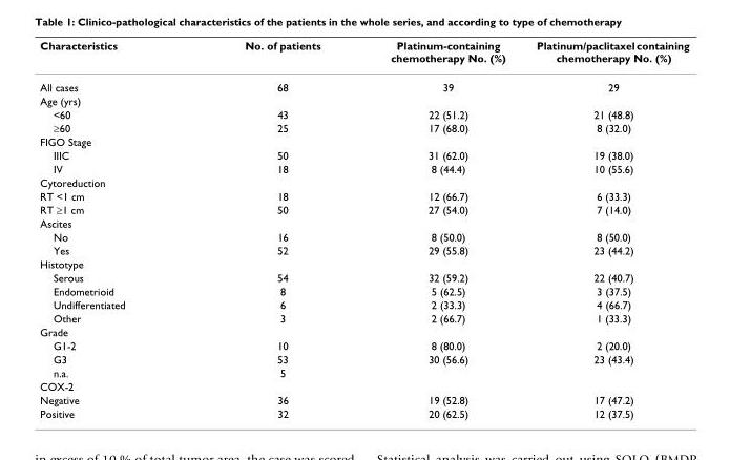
<table><thead><tr><td>Characteristics</td><td>No. of patients</td><td>Platinum-containing chemotherapy No. (%)</td><td>Platinum/paclitaxel containing chemotherapy No. (%)</td></tr></thead><tbody><tr><td>All cases</td><td>68</td><td>39</td><td>29</td></tr><tr><td colspan="4">Age (yrs)</td></tr><tr><td>&lt;60</td><td>43</td><td>22 (51.2)</td><td>21 (48.8)</td></tr><tr><td>≥60</td><td>25</td><td>17 (68.0)</td><td>8 (32.0)</td></tr><tr><td colspan="4">FIGO Stage</td></tr><tr><td>IIIC</td><td>50</td><td>31 (62.0)</td><td>19 (38.0)</td></tr><tr><td>IV</td><td>18</td><td>8 (44.4)</td><td>10 (55.6)</td></tr><tr><td colspan="4">Cytoreduction</td></tr><tr><td>RT &lt;1 cm</td><td>18</td><td>12 (66.7)</td><td>6 (33.3)</td></tr><tr><td>RT ≥1 cm</td><td>50</td><td>27 (54.0)</td><td>7 (14.0)</td></tr><tr><td colspan="4">Ascites</td></tr><tr><td>No</td><td>16</td><td>8 (50.0)</td><td>8 (50.0)</td></tr><tr><td>Yes</td><td>52</td><td>29 (55.8)</td><td>23 (44.2)</td></tr><tr><td colspan="4">Histotype</td></tr><tr><td>Serous</td><td>54</td><td>32 (59.2)</td><td>22 (40.7)</td></tr><tr><td>Endometrioid</td><td>8</td><td>5 (62.5)</td><td>3 (37.5)</td></tr><tr><td>Undifferentiated</td><td>6</td><td>2 (33.3)</td><td>4 (66.7)</td></tr><tr><td>Other</td><td>3</td><td>2 (66.7)</td><td>1 (33.3)</td></tr><tr><td colspan="4">Grade</td></tr><tr><td>G1-2</td><td>10</td><td>8 (80.0)</td><td>2 (20.0)</td></tr><tr><td>G3</td><td>53</td><td>30 (56.6)</td><td>23 (43.4)</td></tr><tr><td>n.a.</td><td>5</td><td></td><td></td></tr><tr><td colspan="4">COX-2</td></tr><tr><td>Negative</td><td>36</td><td>19 (52.8)</td><td>17 (47.2)</td></tr><tr><td>Positive</td><td>32</td><td>20 (62.5)</td><td>12 (37.5)</td></tr></tbody></table>